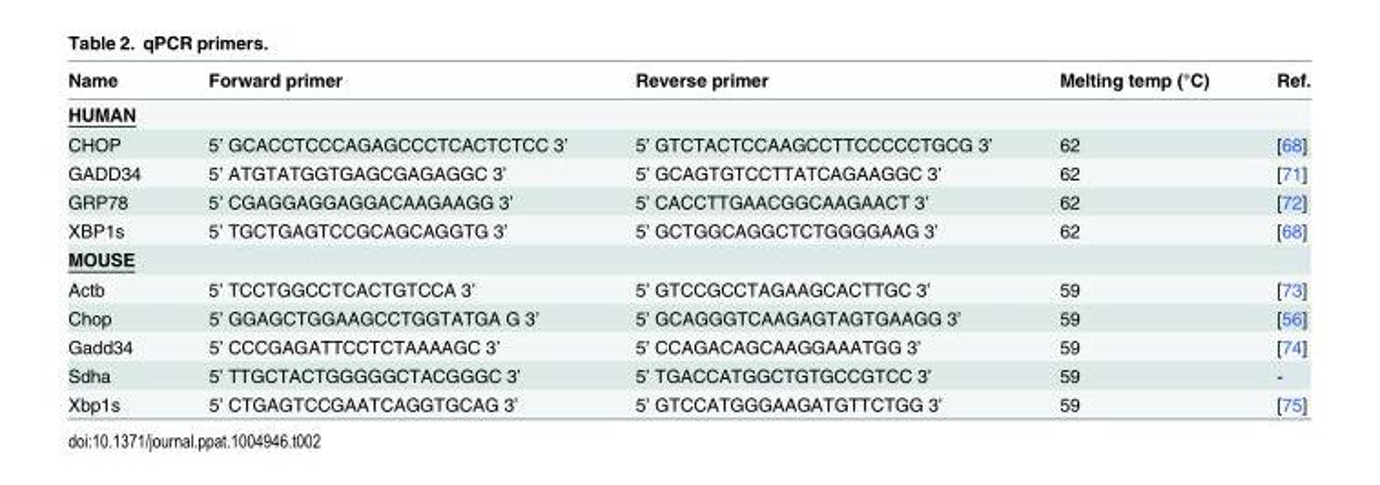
<table><thead><tr><td>Name</td><td>Forward primer</td><td>Reverse primer</td><td>Melting temp (°C)</td><td>Ref.</td></tr></thead><tbody><tr><td colspan="5">HUMAN</td></tr><tr><td>CHOP</td><td>5’ GCACCTCCCAGAGCCCTCACTCTCC 3’</td><td>5’ GTCTACTCCAAGCCTTCCCCCTGCG 3’</td><td>62</td><td>[68]</td></tr><tr><td>GADD34</td><td>5’ ATGTATGGTGAGCGAGAGGC 3’</td><td>5’ GCAGTGTCCTTATCAGAAGGC 3’</td><td>62</td><td>[71]</td></tr><tr><td>GRP78</td><td>5’ CGAGGAGGAGGACAAGAAGG 3’</td><td>5’ CACCTTGAACGGCAAGAACT 3’</td><td>62</td><td>[72]</td></tr><tr><td>XBP1s</td><td>5’ TGCTGAGTCCGCAGCAGGTG 3’</td><td>5’ GCTGGCAGGCTCTGGGGAAG 3’</td><td>62</td><td>[68]</td></tr><tr><td colspan="5">MOUSE</td></tr><tr><td>Actb</td><td>5’ TCCTGGCCTCACTGTCCA 3’</td><td>5’ GTCCGCCTAGAAGCACTTGC 3’</td><td>59</td><td>[73]</td></tr><tr><td>Chop</td><td>5’ GGAGCTGGAAGCCTGGTATGA G 3’</td><td>5’ GCAGGGTCAAGAGTAGTGAAGG 3’</td><td>59</td><td>[56]</td></tr><tr><td>Gadd34</td><td>5’ CCCGAGATTCCTCTAAAAGC 3’</td><td>5’ CCAGACAGCAAGGAAATGG 3’</td><td>59</td><td>[74]</td></tr><tr><td>Sdha</td><td>5’ TTGCTACTGGGGGCTACGGGC 3’</td><td>5’ TGACCATGGCTGTGCCGTCC 3’</td><td>59</td><td>-</td></tr><tr><td>Xbp1s</td><td>5’ CTGAGTCCGAATCAGGTGCAG 3’</td><td>5’ GTCCATGGGAAGATGTTCTGG 3’</td><td>59</td><td>[75]</td></tr></tbody></table>